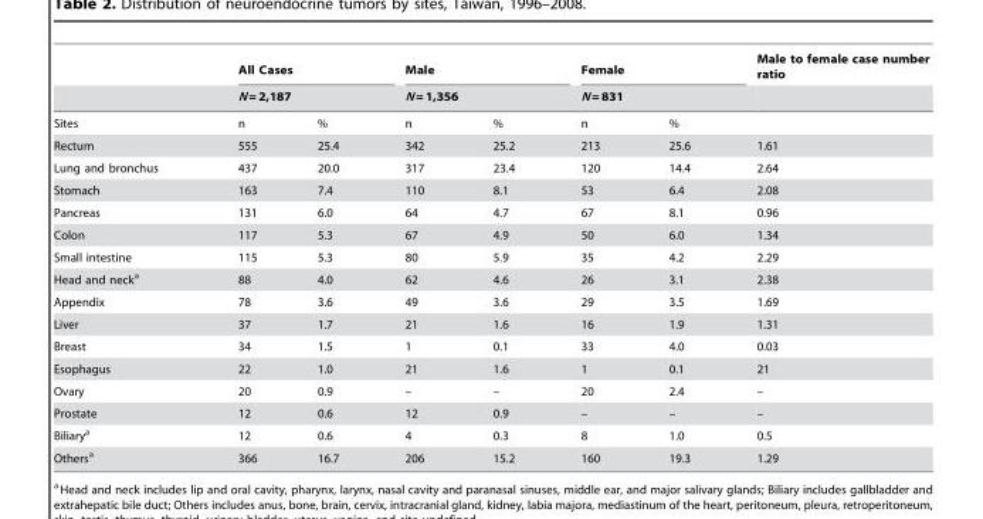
<table><thead><tr><td rowspan="3">Sites</td><td rowspan="2" colspan="2">All Cases N = 2,187</td><td rowspan="2" colspan="2">Male N = 1,356</td><td rowspan="2" colspan="2">Female N = 831</td><td rowspan="3">Male to female case number ratio</td></tr><tr></tr><tr><td>n</td><td>%</td><td>n</td><td>%</td><td>n</td><td>%</td></tr></thead><tbody><tr><td>Rectum</td><td>555</td><td>25.4</td><td>342</td><td>25.2</td><td>213</td><td>25.6</td><td>1.61</td></tr><tr><td>Lung and bronchus</td><td>437</td><td>20.0</td><td>317</td><td>23.4</td><td>120</td><td>14.4</td><td>2.64</td></tr><tr><td>Stomach</td><td>163</td><td>7.4</td><td>110</td><td>8.1</td><td>53</td><td>6.4</td><td>2.08</td></tr><tr><td>Pancreas</td><td>131</td><td>6.0</td><td>64</td><td>4.7</td><td>67</td><td>8.1</td><td>0.96</td></tr><tr><td>Colon</td><td>117</td><td>5.3</td><td>67</td><td>4.9</td><td>50</td><td>6.0</td><td>1.34</td></tr><tr><td>Small intestine</td><td>115</td><td>5.3</td><td>80</td><td>5.9</td><td>35</td><td>4.2</td><td>2.29</td></tr><tr><td>Head and neck<sup>a</sup></td><td>88</td><td>4.0</td><td>62</td><td>4.6</td><td>26</td><td>3.1</td><td>2.38</td></tr><tr><td>Appendix</td><td>78</td><td>3.6</td><td>49</td><td>3.6</td><td>29</td><td>3.5</td><td>1.69</td></tr><tr><td>Liver</td><td>37</td><td>1.7</td><td>21</td><td>1.6</td><td>16</td><td>1.9</td><td>1.31</td></tr><tr><td>Breast</td><td>34</td><td>1.5</td><td>1</td><td>0.1</td><td>33</td><td>4.0</td><td>0.03</td></tr><tr><td>Esophagus</td><td>22</td><td>1.0</td><td>21</td><td>1.6</td><td>1</td><td>0.1</td><td>21</td></tr><tr><td>Ovary</td><td>20</td><td>0.9</td><td>–</td><td>–</td><td>20</td><td>2.4</td><td>–</td></tr><tr><td>Prostate</td><td>12</td><td>0.6</td><td>12</td><td>0.9</td><td>–</td><td>–</td><td>–</td></tr><tr><td>Biliary<sup>a</sup></td><td>12</td><td>0.6</td><td>4</td><td>0.3</td><td>8</td><td>1.0</td><td>0.5</td></tr><tr><td>Others<sup>a</sup></td><td>366</td><td>16.7</td><td>206</td><td>15.2</td><td>160</td><td>19.3</td><td>1.29</td></tr></tbody></table>